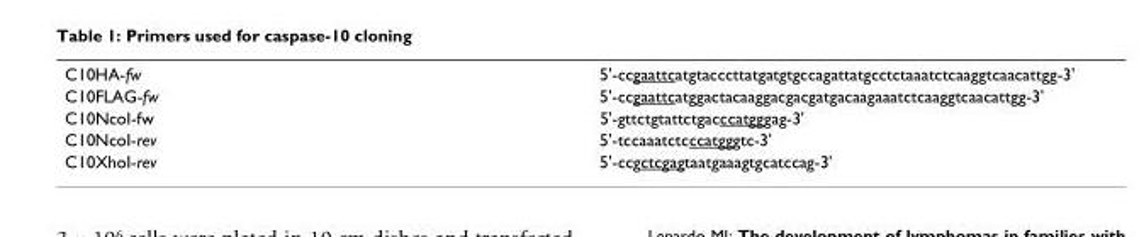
<table><tbody><tr><td>C10HA-fw</td><td>5&#x27;-ccgaattcatgtacccttatgatgtgccagattatgcctctaaatctcaaggtcaacattgg-3&#x27;</td></tr><tr><td>C10FLAG-fw</td><td>5&#x27;-ccgaattcatggactacaaggacgacgatgacaagaaatctcaaggtcaacattgg-3&#x27;</td></tr><tr><td>C10NcoI-fw</td><td>5&#x27;-gttctgtattctgacccatgggag-3&#x27;</td></tr><tr><td>C10NcoI-rev</td><td>5&#x27;-tccaaatctcccatgggtc-3&#x27;</td></tr><tr><td>C10XhoI-rev</td><td>5&#x27;-ccgctcgagtaatgaaagtgcatccag-3&#x27;</td></tr></tbody></table>